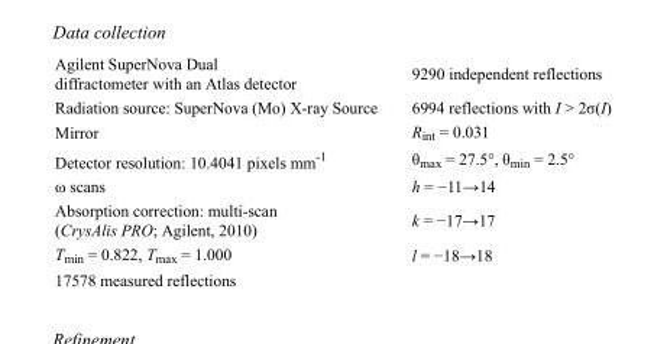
<table><tbody><tr><td>Agilent SuperNova Dual diffractometer with an Atlas detector</td><td>9290 independent reflections</td></tr><tr><td>Radiation source: SuperNova (Mo) X-ray Source</td><td>6994 reflections with I &gt; 2σ(I)</td></tr><tr><td>Mirror</td><td>R<sub>int</sub> = 0.031</td></tr><tr><td>Detector resolution: 10.4041 pixels mm<sup>-1</sup></td><td>θ<sub>max</sub> = 27.5°, θ<sub>min</sub> = 2.5°</td></tr><tr><td>ω scans</td><td>h = −11→14</td></tr><tr><td>Absorption correction: multi-scan (CrysAlis PRO; Agilent, 2010)</td><td>k = −17→17</td></tr><tr><td>T<sub>min</sub> = 0.822, T<sub>max</sub> = 1.000</td><td>l = −18→18</td></tr><tr><td>17578 measured reflections</td><td></td></tr></tbody></table>